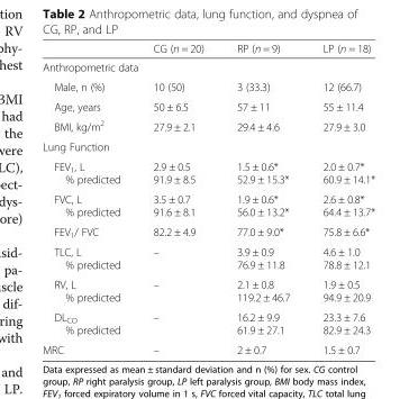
<table><thead><tr><td></td><td>CG (n = 20)</td><td>RP (n = 9)</td><td>LP (n = 18)</td></tr></thead><tbody><tr><td colspan="4">Anthropometric data</td></tr><tr><td>Male, n (%)</td><td>10 (50)</td><td>3 (33.3)</td><td>12 (66.7)</td></tr><tr><td>Age, years</td><td>50 ± 6.5</td><td>57 ± 11</td><td>55 ± 11.4</td></tr><tr><td>BMI, kg/m<sup>2</sup></td><td>27.9 ± 2.1</td><td>29.4 ± 4.6</td><td>27.9 ± 3.0</td></tr><tr><td colspan="4">Lung Function</td></tr><tr><td>FEV<sub>1</sub>, L % predicted</td><td>2.9 ± 0.5 91.9 ± 8.5</td><td>1.5 ± 0.6* 52.9 ± 15.3*</td><td>2.0 ± 0.7* 60.9 ± 14.1*</td></tr><tr><td>FVC, L % predicted</td><td>3.5 ± 0.7 91.6 ± 8.1</td><td>1.9 ± 0.6* 56.0 ± 13.2*</td><td>2.6 ± 0.8* 64.4 ± 13.7*</td></tr><tr><td>FEV<sub>1</sub>/ FVC</td><td>82.2 ± 4.9</td><td>77.0 ± 9.0*</td><td>75.8 ± 6.6*</td></tr><tr><td>TLC, L % predicted</td><td>–</td><td>3.9 ± 0.9 76.9 ± 11.8</td><td>4.6 ± 1.0 78.8 ± 12.1</td></tr><tr><td>RV, L % predicted</td><td>–</td><td>2.1 ± 0.8 119.2 ± 46.7</td><td>1.9 ± 0.5 94.9 ± 20.9</td></tr><tr><td>DL<sub>CO</sub> % predicted</td><td>–</td><td>16.2 ± 9.9 61.9 ± 27.1</td><td>23.3 ± 7.6 82.9 ± 24.3</td></tr><tr><td>MRC</td><td>–</td><td>2 ± 0.7</td><td>1.5 ± 0.7</td></tr></tbody></table>